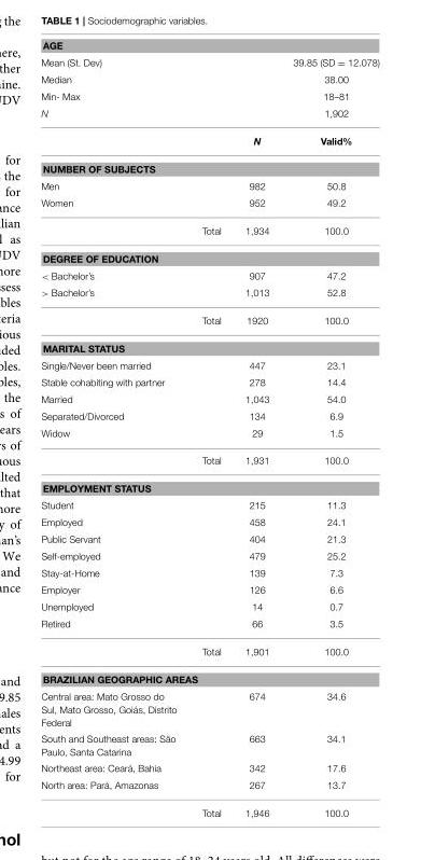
<table><thead><tr><td colspan="4">AGE</td></tr><tr><td>Mean (St. Dev)</td><td></td><td></td><td>39.85 (SD = 12.078)</td></tr></thead><tbody><tr><td>Median</td><td></td><td></td><td>38.00</td></tr><tr><td>Min- Max</td><td></td><td></td><td>18–81</td></tr><tr><td rowspan="2">N</td><td></td><td></td><td>1,902</td></tr><tr><td></td><td>N</td><td>Valid%</td></tr><tr><td colspan="4">NUMBER OF SUBJECTS</td></tr><tr><td>Men</td><td></td><td>982</td><td>50.8</td></tr><tr><td rowspan="2">Women</td><td></td><td>952</td><td>49.2</td></tr><tr><td>Total</td><td>1,934</td><td>100.0</td></tr><tr><td colspan="4">DEGREE OF EDUCATION</td></tr><tr><td>&lt; Bachelor’s</td><td></td><td>907</td><td>47.2</td></tr><tr><td rowspan="2">&gt; Bachelor’s</td><td></td><td>1,013</td><td>52.8</td></tr><tr><td>Total</td><td>1920</td><td>100.0</td></tr><tr><td colspan="4">MARITAL STATUS</td></tr><tr><td>Single/Never been married</td><td></td><td>447</td><td>23.1</td></tr><tr><td>Stable cohabiting with partner</td><td></td><td>278</td><td>14.4</td></tr><tr><td>Married</td><td></td><td>1,043</td><td>54.0</td></tr><tr><td>Separated/Divorced</td><td></td><td>134</td><td>6.9</td></tr><tr><td rowspan="2">Widow</td><td></td><td>29</td><td>1.5</td></tr><tr><td>Total</td><td>1,931</td><td>100.0</td></tr><tr><td colspan="4">EMPLOYMENT STATUS</td></tr><tr><td>Student</td><td></td><td>215</td><td>11.3</td></tr><tr><td>Employed</td><td></td><td>458</td><td>24.1</td></tr><tr><td>Public Servant</td><td></td><td>404</td><td>21.3</td></tr><tr><td>Self-employed</td><td></td><td>479</td><td>25.2</td></tr><tr><td>Stay-at-Home</td><td></td><td>139</td><td>7.3</td></tr><tr><td>Employer</td><td></td><td>126</td><td>6.6</td></tr><tr><td>Unemployed</td><td></td><td>14</td><td>0.7</td></tr><tr><td rowspan="2">Retired</td><td></td><td>66</td><td>3.5</td></tr><tr><td>Total</td><td>1,901</td><td>100.0</td></tr><tr><td colspan="4">BRAZILIAN GEOGRAPHIC AREAS</td></tr><tr><td>Central area: Mato Grosso do Sul, Mato Grosso, Goiás, Distrito Federal</td><td></td><td>674</td><td>34.6</td></tr><tr><td>South and Southeast areas: São Paulo, Santa Catarina</td><td></td><td>663</td><td>34.1</td></tr><tr><td>Northeast area: Ceará, Bahia</td><td></td><td>342</td><td>17.6</td></tr><tr><td rowspan="2">North area: Pará, Amazonas</td><td></td><td>267</td><td>13.7</td></tr><tr><td>Total</td><td>1,946</td><td>100.0</td></tr></tbody></table>